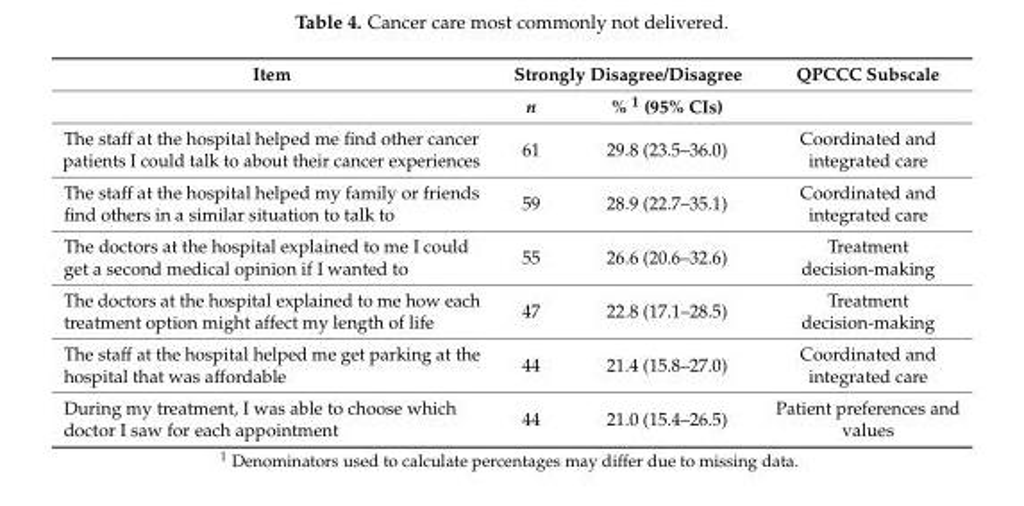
<table><thead><tr><td rowspan="2">Item</td><td colspan="2">Strongly Disagree/Disagree</td><td rowspan="2">QPCCC Subscale</td></tr><tr><td>n</td><td>% <sup>1</sup> (95% CIs)</td></tr></thead><tbody><tr><td>The staff at the hospital helped me find other cancer patients I could talk to about their cancer experiences</td><td>61</td><td>29.8 (23.5–36.0)</td><td>Coordinated and integrated care</td></tr><tr><td>The staff at the hospital helped my family or friends find others in a similar situation to talk to</td><td>59</td><td>28.9 (22.7–35.1)</td><td>Coordinated and integrated care</td></tr><tr><td>The doctors at the hospital explained to me I could get a second medical opinion if I wanted to</td><td>55</td><td>26.6 (20.6–32.6)</td><td>Treatment decision-making</td></tr><tr><td>The doctors at the hospital explained to me how each treatment option might affect my length of life</td><td>47</td><td>22.8 (17.1–28.5)</td><td>Treatment decision-making</td></tr><tr><td>The staff at the hospital helped me get parking at the hospital that was affordable</td><td>44</td><td>21.4 (15.8–27.0)</td><td>Coordinated and integrated care</td></tr><tr><td>During my treatment, I was able to choose which doctor I saw for each appointment</td><td>44</td><td>21.0 (15.4–26.5)</td><td>Patient preferences and values</td></tr></tbody></table>